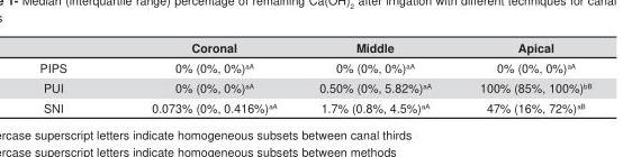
<table><thead><tr><td></td><td>Coronal</td><td>Middle</td><td>Apical</td></tr></thead><tbody><tr><td>PIPS</td><td>0% (0%, 0%)<sup>aA</sup></td><td>0% (0%, 0%)<sup>aA</sup></td><td>0% (0%, 0%)<sup>aA</sup></td></tr><tr><td>PUI</td><td>0% (0%, 0%)<sup>aA</sup></td><td>0.50% (0%, 5.82%)<sup>aA</sup></td><td>100% (85%, 100%)<sup>bB</sup></td></tr><tr><td>SNI</td><td>0.073% (0%, 0.416%)<sup>aA</sup></td><td>1.7% (0.8%, 4.5%)<sup>aA</sup></td><td>47% (16%, 72%)<sup>aB</sup></td></tr></tbody></table>